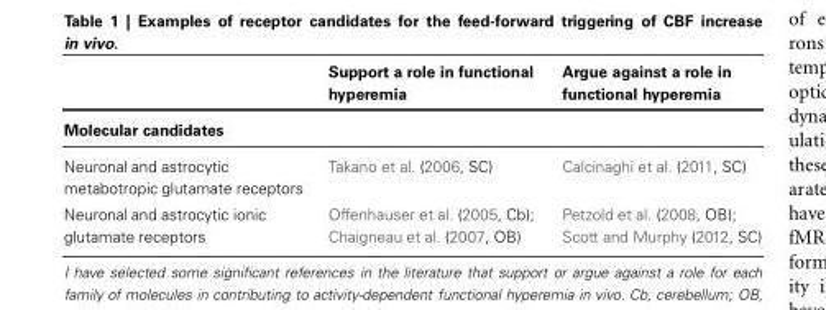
<table><thead><tr><td></td><td>Support a role in functional hyperemia</td><td>Argue against a role in functional hyperemia</td></tr></thead><tbody><tr><td colspan="3">Molecular candidates</td></tr><tr><td>Neuronal and astrocytic metabotropic glutamate receptors</td><td>Takano et al. (2006, SC)</td><td>Calcinaghi et al. (2011, SC)</td></tr><tr><td>Neuronal and astrocytic ionic glutamate receptors</td><td>Offenhauser et al. (2005, Cb); Chaigneau et al. (2007, OB)</td><td>Petzold et al. (2008, OB); Scott and Murphy (2012, SC)</td></tr></tbody></table>